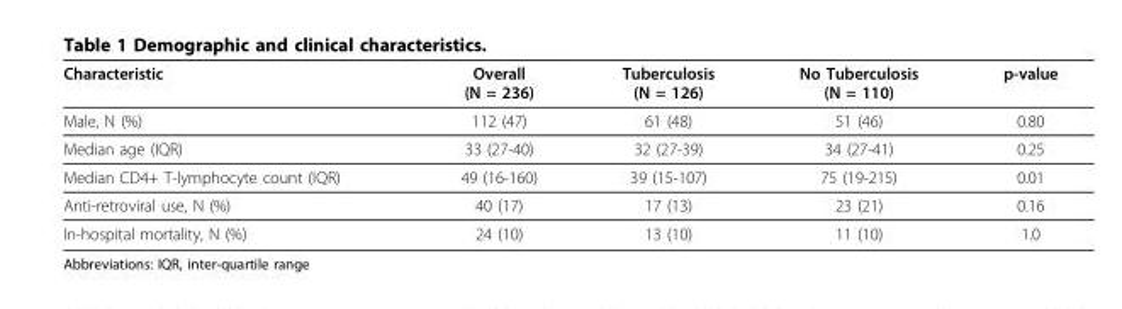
<table><thead><tr><td>Characteristic</td><td>Overall (N = 236)</td><td>Tuberculosis (N = 126)</td><td>No Tuberculosis (N = 110)</td><td>p-value</td></tr></thead><tbody><tr><td>Male, N (%)</td><td>112 (47)</td><td>61 (48)</td><td>51 (46)</td><td>0.80</td></tr><tr><td>Median age (IQR)</td><td>33 (27-40)</td><td>32 (27-39)</td><td>34 (27-41)</td><td>0.25</td></tr><tr><td>Median CD4+ T-lymphocyte count (IQR)</td><td>49 (16-160)</td><td>39 (15-107)</td><td>75 (19-215)</td><td>0.01</td></tr><tr><td>Anti-retroviral use, N (%)</td><td>40 (17)</td><td>17 (13)</td><td>23 (21)</td><td>0.16</td></tr><tr><td>In-hospital mortality, N (%)</td><td>24 (10)</td><td>13 (10)</td><td>11 (10)</td><td>1.0</td></tr></tbody></table>